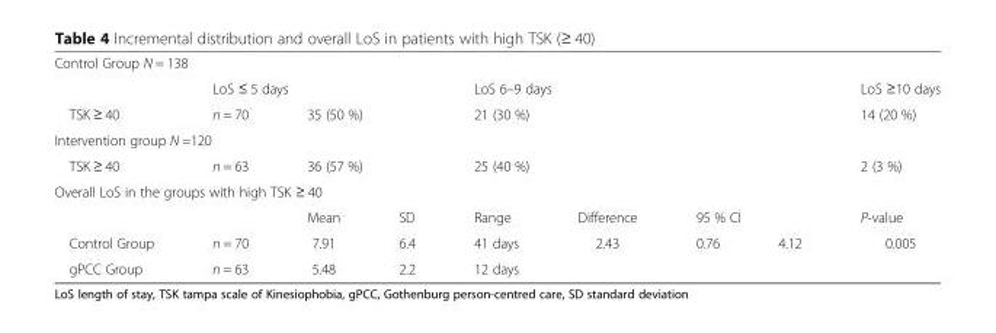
<table><tbody><tr><td colspan="9">Control Group N = 138</td></tr><tr><td></td><td colspan="3">LoS ≤ 5 days</td><td colspan="4">LoS 6–9 days</td><td>LoS ≥10 days</td></tr><tr><td>TSK ≥ 40</td><td>n = 70</td><td colspan="2">35 (50 %)</td><td colspan="4">21 (30 %)</td><td>14 (20 %)</td></tr><tr><td colspan="9">Intervention group N =120</td></tr><tr><td>TSK ≥ 40</td><td>n = 63</td><td colspan="2">36 (57 %)</td><td colspan="4">25 (40 %)</td><td>2 (3 %)</td></tr><tr><td colspan="9">Overall LoS in the groups with high TSK ≥ 40</td></tr><tr><td colspan="2"></td><td>Mean</td><td>SD</td><td>Range</td><td>Difference</td><td colspan="2">95 % CI</td><td>P-value</td></tr><tr><td>Control Group</td><td>n = 70</td><td>7.91</td><td>6.4</td><td>41 days</td><td rowspan="2">2.43</td><td rowspan="2">0.76</td><td rowspan="2">4.12</td><td rowspan="2">0.005</td></tr><tr><td>gPCC Group</td><td>n = 63</td><td>5.48</td><td>2.2</td><td>12 days</td></tr></tbody></table>